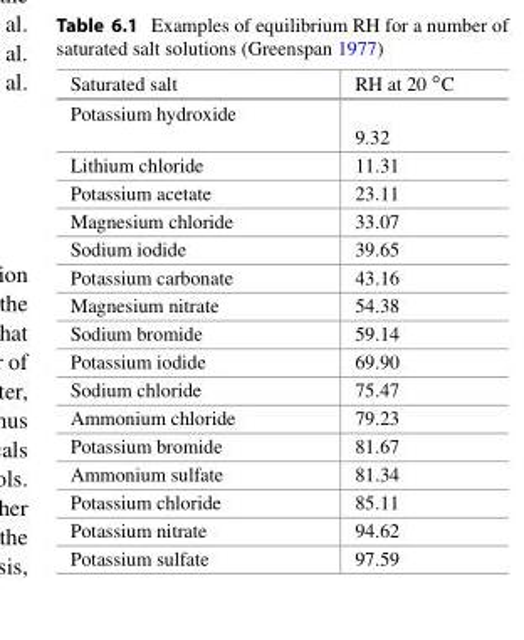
<table><thead><tr><td>Saturated salt</td><td>RH at 20 ıC</td></tr></thead><tbody><tr><td>Potassium hydroxide</td><td>9.32</td></tr><tr><td>Lithium chloride</td><td>11.31</td></tr><tr><td>Potassium acetate</td><td>23.11</td></tr><tr><td>Magnesium chloride</td><td>33.07</td></tr><tr><td>Sodium iodide</td><td>39.65</td></tr><tr><td>Potassium carbonate</td><td>43.16</td></tr><tr><td>Magnesium nitrate</td><td>54.38</td></tr><tr><td>Sodium bromide</td><td>59.14</td></tr><tr><td>Potassium iodide</td><td>69.90</td></tr><tr><td>Sodium chloride</td><td>75.47</td></tr><tr><td>Ammonium chloride</td><td>79.23</td></tr><tr><td>Potassium bromide</td><td>81.67</td></tr><tr><td>Ammonium sulfate</td><td>81.34</td></tr><tr><td>Potassium chloride</td><td>85.11</td></tr><tr><td>Potassium nitrate</td><td>94.62</td></tr><tr><td>Potassium sulfate</td><td>97.59</td></tr></tbody></table>